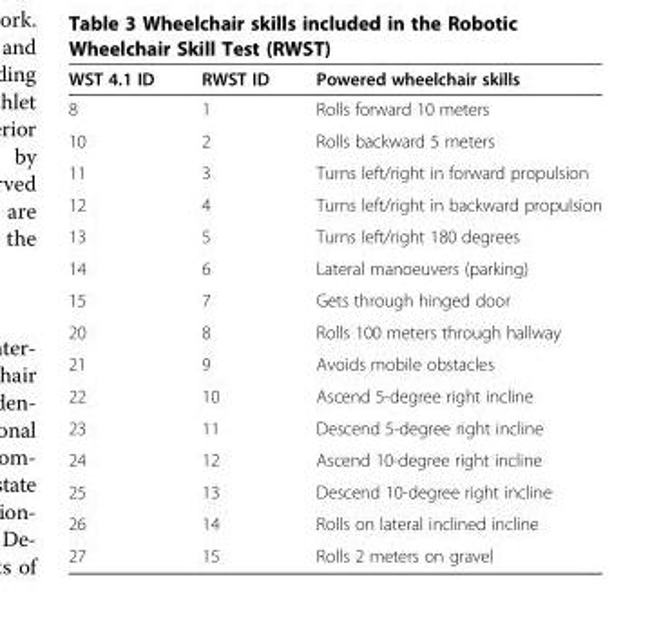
<table><thead><tr><td>WST 4.1 ID</td><td>RWST ID</td><td>Powered wheelchair skills</td></tr></thead><tbody><tr><td>8</td><td>1</td><td>Rolls forward 10 meters</td></tr><tr><td>10</td><td>2</td><td>Rolls backward 5 meters</td></tr><tr><td>11</td><td>3</td><td>Turns left/right in forward propulsion</td></tr><tr><td>12</td><td>4</td><td>Turns left/right in backward propulsion</td></tr><tr><td>13</td><td>5</td><td>Turns left/right 180 degrees</td></tr><tr><td>14</td><td>6</td><td>Lateral manoeuvers (parking)</td></tr><tr><td>15</td><td>7</td><td>Gets through hinged door</td></tr><tr><td>20</td><td>8</td><td>Rolls 100 meters through hallway</td></tr><tr><td>21</td><td>9</td><td>Avoids mobile obstacles</td></tr><tr><td>22</td><td>10</td><td>Ascend 5-degree right incline</td></tr><tr><td>23</td><td>11</td><td>Descend 5-degree right incline</td></tr><tr><td>24</td><td>12</td><td>Ascend 10-degree right incline</td></tr><tr><td>25</td><td>13</td><td>Descend 10-degree right incline</td></tr><tr><td>26</td><td>14</td><td>Rolls on lateral inclined incline</td></tr><tr><td>27</td><td>15</td><td>Rolls 2 meters on gravel</td></tr></tbody></table>